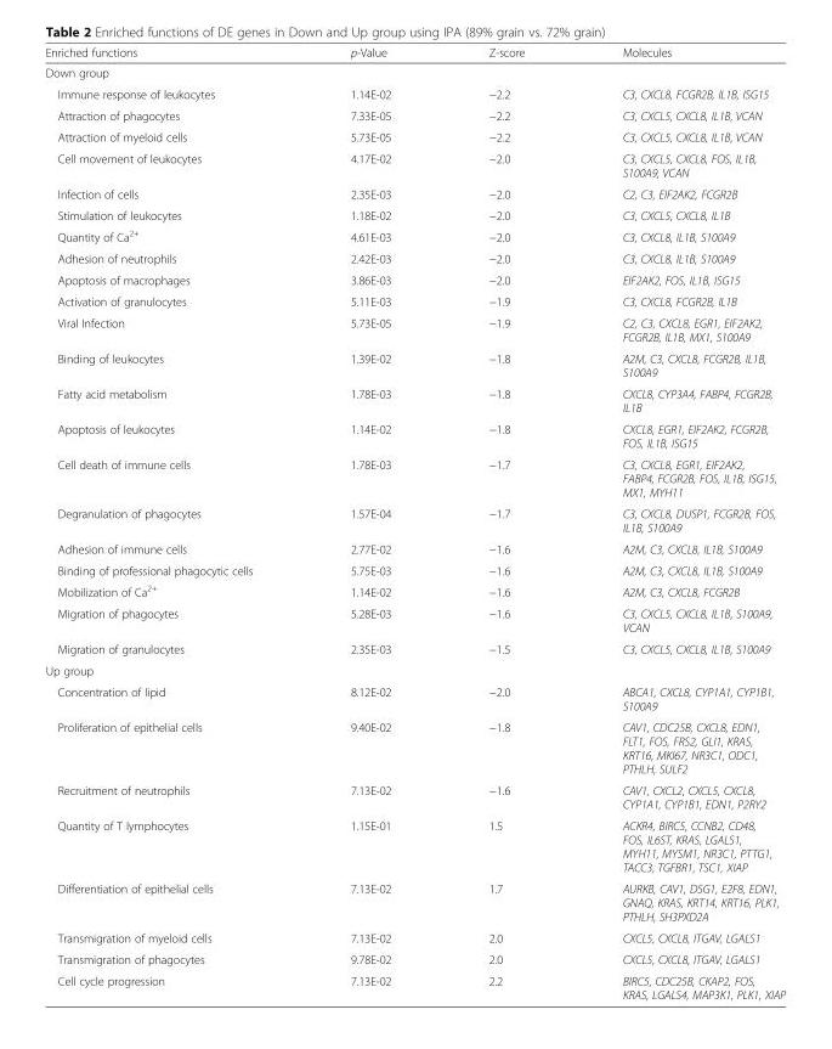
<table><thead><tr><td>Enriched functions</td><td>p-Value</td><td>Z-score</td><td>Molecules</td></tr></thead><tbody><tr><td colspan="4">Down group</td></tr><tr><td>Immune response of leukocytes</td><td>1.14E-02</td><td>−2.2</td><td>C3, CXCL8, FCGR2B, IL1B, ISG15</td></tr><tr><td>Attraction of phagocytes</td><td>7.33E-05</td><td>−2.2</td><td>C3, CXCL5, CXCL8, IL1B, VCAN</td></tr><tr><td>Attraction of myeloid cells</td><td>5.73E-05</td><td>−2.2</td><td>C3, CXCL5, CXCL8, IL1B, VCAN</td></tr><tr><td>Cell movement of leukocytes</td><td>4.17E-02</td><td>−2.0</td><td>C3, CXCL5, CXCL8, FOS, IL1B, S100A9, VCAN</td></tr><tr><td>Infection of cells</td><td>2.35E-03</td><td>−2.0</td><td>C2, C3, EIF2AK2, FCGR2B</td></tr><tr><td>Stimulation of leukocytes</td><td>1.18E-02</td><td>−2.0</td><td>C3, CXCL5, CXCL8, IL1B</td></tr><tr><td>Quantity of Ca<sup>2+</sup></td><td>4.61E-03</td><td>−2.0</td><td>C3, CXCL8, IL1B, S100A9</td></tr><tr><td>Adhesion of neutrophils</td><td>2.42E-03</td><td>−2.0</td><td>C3, CXCL8, IL1B, S100A9</td></tr><tr><td>Apoptosis of macrophages</td><td>3.86E-03</td><td>−2.0</td><td>EIF2AK2, FOS, IL1B, ISG15</td></tr><tr><td>Activation of granulocytes</td><td>5.11E-03</td><td>−1.9</td><td>C3, CXCL8, FCGR2B, IL1B</td></tr><tr><td>Viral Infection</td><td>5.73E-05</td><td>−1.9</td><td>C2, C3, CXCL8, EGR1, EIF2AK2, FCGR2B, IL1B, MX1, S100A9</td></tr><tr><td>Binding of leukocytes</td><td>1.39E-02</td><td>−1.8</td><td>A2M, C3, CXCL8, FCGR2B, IL1B, S100A9</td></tr><tr><td>Fatty acid metabolism</td><td>1.78E-03</td><td>−1.8</td><td>CXCL8, CYP3A4, FABP4, FCGR2B, IL1B</td></tr><tr><td>Apoptosis of leukocytes</td><td>1.14E-02</td><td>−1.8</td><td>CXCL8, EGR1, EIF2AK2, FCGR2B, FOS, IL1B, ISG15</td></tr><tr><td>Cell death of immune cells</td><td>1.78E-03</td><td>−1.7</td><td>C3, CXCL8, EGR1, EIF2AK2, FABP4, FCGR2B, FOS, IL1B, ISG15, MX1, MYH11</td></tr><tr><td>Degranulation of phagocytes</td><td>1.57E-04</td><td>−1.7</td><td>C3, CXCL8, DUSP1, FCGR2B, FOS, IL1B, S100A9</td></tr><tr><td>Adhesion of immune cells</td><td>2.77E-02</td><td>−1.6</td><td>A2M, C3, CXCL8, IL1B, S100A9</td></tr><tr><td>Binding of professional phagocytic cells</td><td>5.75E-03</td><td>−1.6</td><td>A2M, C3, CXCL8, IL1B, S100A9</td></tr><tr><td>Mobilization of Ca<sup>2+</sup></td><td>1.14E-02</td><td>−1.6</td><td>A2M, C3, CXCL8, FCGR2B</td></tr><tr><td>Migration of phagocytes</td><td>5.28E-03</td><td>−1.6</td><td>C3, CXCL5, CXCL8, IL1B, S100A9, VCAN</td></tr><tr><td>Migration of granulocytes</td><td>2.35E-03</td><td>−1.5</td><td>C3, CXCL5, CXCL8, IL1B, S100A9</td></tr><tr><td colspan="4">Up group</td></tr><tr><td>Concentration of lipid</td><td>8.12E-02</td><td>−2.0</td><td>ABCA1, CXCL8, CYP1A1, CYP1B1, S100A9</td></tr><tr><td>Proliferation of epithelial cells</td><td>9.40E-02</td><td>−1.8</td><td>CAV1, CDC25B, CXCL8, EDN1, FLT1, FOS, FRS2, GLI1, KRAS, KRT16, MKI67, NR3C1, ODC1, PTHLH, SULF2</td></tr><tr><td>Recruitment of neutrophils</td><td>7.13E-02</td><td>−1.6</td><td>CAV1, CXCL2, CXCL5, CXCL8, CYP1A1, CYP1B1, EDN1, P2RY2</td></tr><tr><td>Quantity of T lymphocytes</td><td>1.15E-01</td><td>1.5</td><td>ACKR4, BIRC5, CCNB2, CD48, FOS, IL6ST, KRAS, LGALS1, MYH11, MYSM1, NR3C1, PTTG1, TACC3, TGFBR1, TSC1, XIAP</td></tr><tr><td>Differentiation of epithelial cells</td><td>7.13E-02</td><td>1.7</td><td>AURKB, CAV1, DSG1, E2F8, EDN1, GNAQ, KRAS, KRT14, KRT16, PLK1, PTHLH, SH3PXD2A</td></tr><tr><td>Transmigration of myeloid cells</td><td>7.13E-02</td><td>2.0</td><td>CXCL5, CXCL8, ITGAV, LGALS1</td></tr><tr><td>Transmigration of phagocytes</td><td>9.78E-02</td><td>2.0</td><td>CXCL5, CXCL8, ITGAV, LGALS1</td></tr><tr><td>Cell cycle progression</td><td>7.13E-02</td><td>2.2</td><td>BIRC5, CDC25B, CKAP2, FOS, KRAS, LGALS4, MAP3K1, PLK1, XIAP</td></tr></tbody></table>